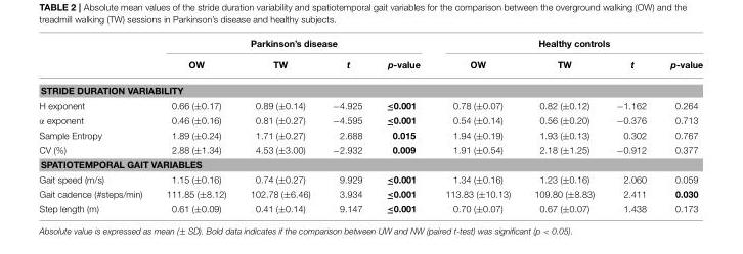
<table><thead><tr><td rowspan="2"></td><td colspan="4">Parkinson’s disease</td><td colspan="4">Healthy controls</td></tr><tr><td>OW</td><td>TW</td><td>t</td><td>p-value</td><td>OW</td><td>TW</td><td>t</td><td>p-value</td></tr></thead><tbody><tr><td colspan="9">STRIDE DURATION VARIABILITY</td></tr><tr><td>H exponent</td><td>0.66 (±0.17)</td><td>0.89 (±0.14)</td><td>−4.925</td><td>≤0.001</td><td>0.78 (±0.07)</td><td>0.82 (±0.12)</td><td>−1.162</td><td>0.264</td></tr><tr><td>α exponent</td><td>0.46 (±0.16)</td><td>0.81 (±0.27)</td><td>−4.595</td><td>≤0.001</td><td>0.54 (±0.14)</td><td>0.56 (±0.20)</td><td>−0.376</td><td>0.713</td></tr><tr><td>Sample Entropy</td><td>1.89 (±0.24)</td><td>1.71 (±0.27)</td><td>2.688</td><td>0.015</td><td>1.94 (±0.19)</td><td>1.93 (±0.13)</td><td>0.302</td><td>0.767</td></tr><tr><td>CV (%)</td><td>2.88 (±1.34)</td><td>4.53 (±3.00)</td><td>−2.932</td><td>0.009</td><td>1.91 (±0.54)</td><td>2.18 (±1.25)</td><td>−0.912</td><td>0.377</td></tr><tr><td colspan="9">SPATIOTEMPORAL GAIT VARIABLES</td></tr><tr><td>Gait speed (m/s)</td><td>1.15 (±0.16)</td><td>0.74 (±0.27)</td><td>9.929</td><td>≤0.001</td><td>1.34 (±0.16)</td><td>1.23 (±0.16)</td><td>2.060</td><td>0.059</td></tr><tr><td>Gait cadence (#steps/min)</td><td>111.85 (±8.12)</td><td>102.78 (±6.46)</td><td>3.934</td><td>≤0.001</td><td>113.83 (±10.13)</td><td>109.80 (±8.83)</td><td>2.411</td><td>0.030</td></tr><tr><td>Step length (m)</td><td>0.61 (±0.09)</td><td>0.41 (±0.14)</td><td>9.147</td><td>≤0.001</td><td>0.70 (±0.07)</td><td>0.67 (±0.07)</td><td>1.438</td><td>0.173</td></tr></tbody></table>